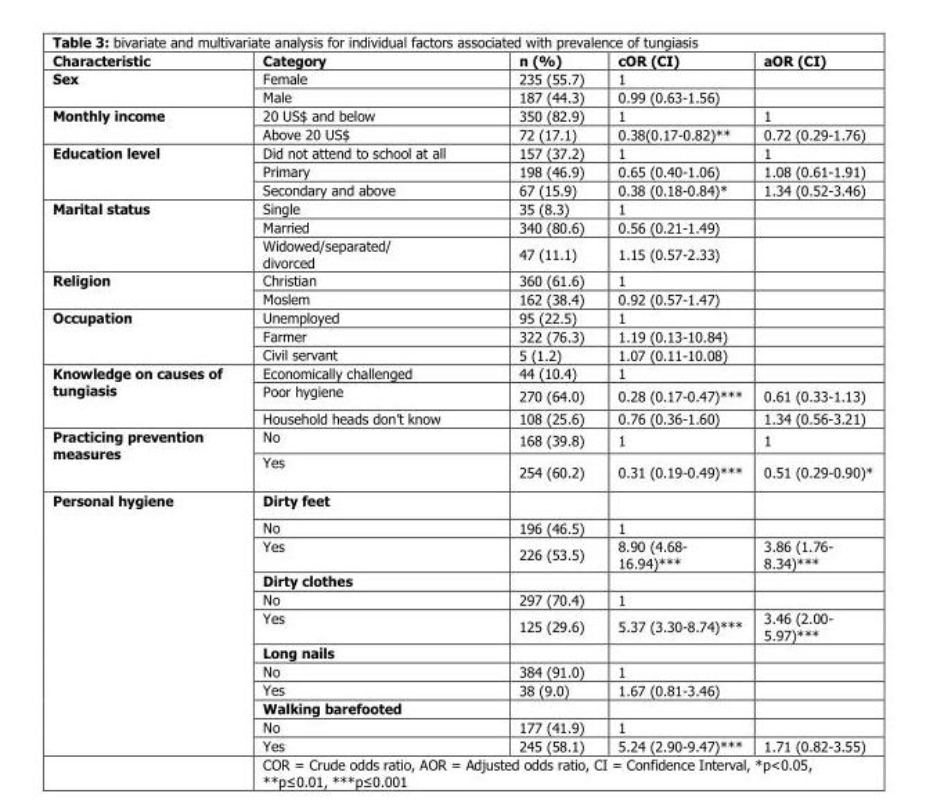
<table><thead><tr><td>Characteristic</td><td>Category</td><td>n (%)</td><td>cOR (CI)</td><td>aOR (CI)</td></tr></thead><tbody><tr><td rowspan="2">Sex</td><td>Female</td><td>235 (55.7)</td><td>1</td><td></td></tr><tr><td>Male</td><td>187 (44.3)</td><td>0.99 (0.63-1.56)</td><td></td></tr><tr><td rowspan="2">Monthly income</td><td>20 US$ and below</td><td>350 (82.9)</td><td>1</td><td>1</td></tr><tr><td>Above 20 US$</td><td>72 (17.1)</td><td>0.38(0.17-0.82)**</td><td>0.72 (0.29-1.76)</td></tr><tr><td rowspan="3">Education level</td><td>Did not attend to school at all</td><td>157 (37.2)</td><td>1</td><td>1</td></tr><tr><td>Primary</td><td>198 (46.9)</td><td>0.65 (0.40-1.06)</td><td>1.08 (0.61-1.91)</td></tr><tr><td>Secondary and above</td><td>67 (15.9)</td><td>0.38 (0.18-0.84)*</td><td>1.34 (0.52-3.46)</td></tr><tr><td rowspan="3">Marital status</td><td>Single</td><td>35 (8.3)</td><td>1</td><td></td></tr><tr><td>Married</td><td>340 (80.6)</td><td>0.56 (0.21-1.49)</td><td></td></tr><tr><td>Widowed/separated/ divorced</td><td>47 (11.1)</td><td>1.15 (0.57-2.33)</td><td></td></tr><tr><td rowspan="2">Religion</td><td>Christian</td><td>360 (61.6)</td><td>1</td><td></td></tr><tr><td>Moslem</td><td>162 (38.4)</td><td>0.92 (0.57-1.47)</td><td></td></tr><tr><td rowspan="3">Occupation</td><td>Unemployed</td><td>95 (22.5)</td><td>1</td><td></td></tr><tr><td>Farmer</td><td>322 (76.3)</td><td>1.19 (0.13-10.84)</td><td></td></tr><tr><td>Civil servant</td><td>5 (1.2)</td><td>1.07 (0.11-10.08)</td><td></td></tr><tr><td rowspan="3">Knowledge on causes of tungiasis</td><td>Economically challenged</td><td>44 (10.4)</td><td>1</td><td></td></tr><tr><td>Poor hygiene</td><td>270 (64.0)</td><td>0.28 (0.17-0.47)***</td><td>0.61 (0.33-1.13)</td></tr><tr><td>Household heads don’t know</td><td>108 (25.6)</td><td>0.76 (0.36-1.60)</td><td>1.34 (0.56-3.21)</td></tr><tr><td rowspan="2">Practicing prevention measures</td><td>No</td><td>168 (39.8)</td><td>1</td><td>1</td></tr><tr><td>Yes</td><td>254 (60.2)</td><td>0.31 (0.19-0.49)***</td><td>0.51 (0.29-0.90)*</td></tr><tr><td rowspan="12">Personal hygiene</td><td>Dirty feet</td><td></td><td></td><td></td></tr><tr><td>No</td><td>196 (46.5)</td><td>1</td><td></td></tr><tr><td>Yes</td><td>226 (53.5)</td><td>8.90 (4.68- 16.94)***</td><td>3.86 (1.76- 8.34)***</td></tr><tr><td>Dirty clothes</td><td></td><td></td><td></td></tr><tr><td>No</td><td>297 (70.4)</td><td>1</td><td></td></tr><tr><td>Yes</td><td>125 (29.6)</td><td>5.37 (3.30-8.74)***</td><td>3.46 (2.00- 5.97)***</td></tr><tr><td>Long nails</td><td></td><td></td><td></td></tr><tr><td>No</td><td>384 (91.0)</td><td>1</td><td></td></tr><tr><td>Yes</td><td>38 (9.0)</td><td>1.67 (0.81-3.46)</td><td></td></tr><tr><td>Walking barefooted</td><td></td><td></td><td></td></tr><tr><td>No</td><td>177 (41.9)</td><td>1</td><td></td></tr><tr><td>Yes</td><td>245 (58.1)</td><td>5.24 (2.90-9.47)***</td><td>1.71 (0.82-3.55)</td></tr></tbody></table>